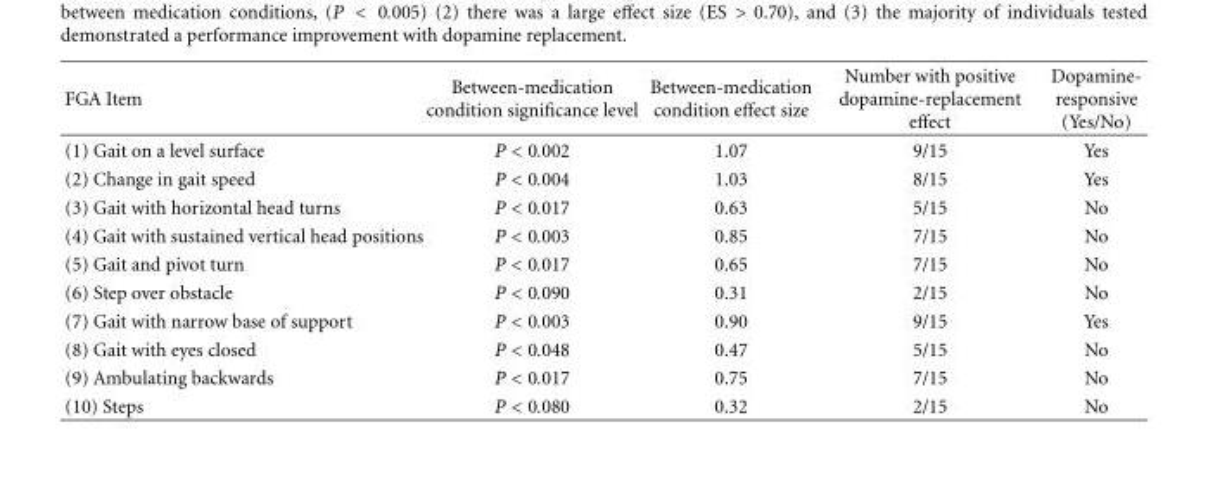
<table><thead><tr><td>FGA Item</td><td>Between-medication condition significance level</td><td>Between-medication condition effect size</td><td>Number with positive dopamine-replacement effect</td><td>Dopamine- responsive (Yes/No)</td></tr></thead><tbody><tr><td>(1) Gait on a level surface</td><td>P &lt; 0.002</td><td>1.07</td><td>9/15</td><td>Yes</td></tr><tr><td>(2) Change in gait speed</td><td>P &lt; 0.004</td><td>1.03</td><td>8/15</td><td>Yes</td></tr><tr><td>(3) Gait with horizontal head turns</td><td>P &lt; 0.017</td><td>0.63</td><td>5/15</td><td>No</td></tr><tr><td>(4) Gait with sustained vertical head positions</td><td>P &lt; 0.003</td><td>0.85</td><td>7/15</td><td>No</td></tr><tr><td>(5) Gait and pivot turn</td><td>P &lt; 0.017</td><td>0.65</td><td>7/15</td><td>No</td></tr><tr><td>(6) Step over obstacle</td><td>P &lt; 0.090</td><td>0.31</td><td>2/15</td><td>No</td></tr><tr><td>(7) Gait with narrow base of support</td><td>P &lt; 0.003</td><td>0.90</td><td>9/15</td><td>Yes</td></tr><tr><td>(8) Gait with eyes closed</td><td>P &lt; 0.048</td><td>0.47</td><td>5/15</td><td>No</td></tr><tr><td>(9) Ambulating backwards</td><td>P &lt; 0.017</td><td>0.75</td><td>7/15</td><td>No</td></tr><tr><td>(10) Steps</td><td>P &lt; 0.080</td><td>0.32</td><td>2/15</td><td>No</td></tr></tbody></table>